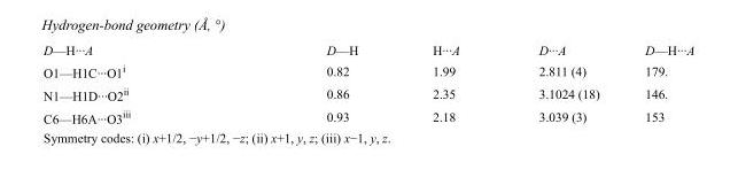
<table><tbody><tr><td>D—H···A</td><td>D—H</td><td>H···A</td><td>D···A</td><td>D—H···A</td></tr><tr><td>O1—H1C···O1<sup>i</sup></td><td>0.82</td><td>1.99</td><td>2.811 (4)</td><td>179.</td></tr><tr><td>N1—H1D···O2<sup>ii</sup></td><td>0.86</td><td>2.35</td><td>3.1024 (18)</td><td>146.</td></tr><tr><td>C6—H6A···O3<sup>iii</sup></td><td>0.93</td><td>2.18</td><td>3.039 (3)</td><td>153</td></tr></tbody></table>